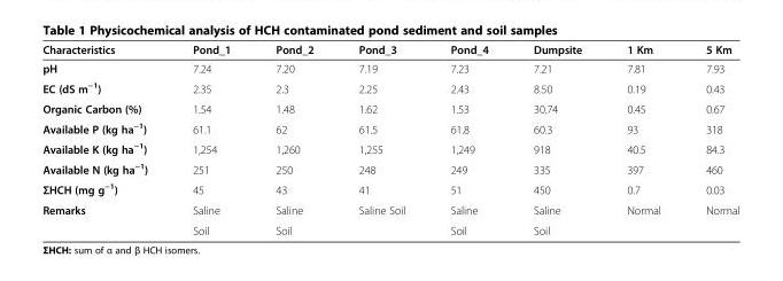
<table><thead><tr><td>Characteristics</td><td>Pond_1</td><td>Pond_2</td><td>Pond_3</td><td>Pond_4</td><td>Dumpsite</td><td>1 Km</td><td>5 Km</td></tr></thead><tbody><tr><td>pH</td><td>7.24</td><td>7.20</td><td>7.19</td><td>7.23</td><td>7.21</td><td>7.81</td><td>7.93</td></tr><tr><td>EC (dS m<sup>−1</sup>)</td><td>2.35</td><td>2.3</td><td>2.25</td><td>2.43</td><td>8.50</td><td>0.19</td><td>0.43</td></tr><tr><td>Organic Carbon (%)</td><td>1.54</td><td>1.48</td><td>1.62</td><td>1.53</td><td>30.74</td><td>0.45</td><td>0.67</td></tr><tr><td>Available P (kg ha<sup>−1</sup>)</td><td>61.1</td><td>62</td><td>61.5</td><td>61.8</td><td>60.3</td><td>93</td><td>318</td></tr><tr><td>Available K (kg ha<sup>−1</sup>)</td><td>1,254</td><td>1,260</td><td>1,255</td><td>1,249</td><td>918</td><td>40.5</td><td>84.3</td></tr><tr><td>Available N (kg ha<sup>−1</sup>)</td><td>251</td><td>250</td><td>248</td><td>249</td><td>335</td><td>397</td><td>460</td></tr><tr><td>ΣHCH (mg g<sup>−1</sup>)</td><td>45</td><td>43</td><td>41</td><td>51</td><td>450</td><td>0.7</td><td>0.03</td></tr><tr><td rowspan="2">Remarks</td><td>Saline</td><td>Saline</td><td>Saline Soil</td><td>Saline</td><td>Saline</td><td rowspan="2">Normal</td><td rowspan="2">Normal</td></tr><tr><td>Soil</td><td>Soil</td><td></td><td>Soil</td><td>Soil</td></tr></tbody></table>